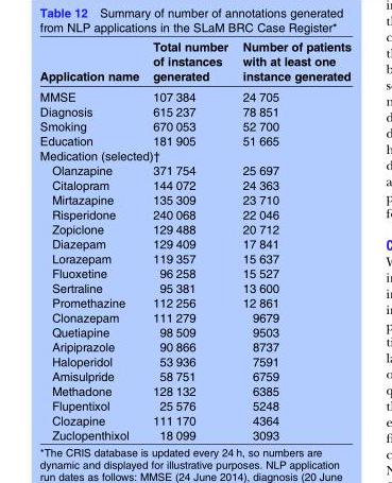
<table><thead><tr><td>Application name</td><td>Total number of instances generated</td><td>Number of patients with at least one instance generated</td></tr></thead><tbody><tr><td>MMSE</td><td>107 384</td><td>24 705</td></tr><tr><td>Diagnosis</td><td>615 237</td><td>78 851</td></tr><tr><td>Smoking</td><td>670 053</td><td>52 700</td></tr><tr><td>Education</td><td>181 905</td><td>51 665</td></tr><tr><td colspan="3">Medication (selected)†</td></tr><tr><td>Olanzapine</td><td>371 754</td><td>25 697</td></tr><tr><td>Citalopram</td><td>144 072</td><td>24 363</td></tr><tr><td>Mirtazapine</td><td>135 309</td><td>23 710</td></tr><tr><td>Risperidone</td><td>240 068</td><td>22 046</td></tr><tr><td>Zopiclone</td><td>129 488</td><td>20 712</td></tr><tr><td>Diazepam</td><td>129 409</td><td>17 841</td></tr><tr><td>Lorazepam</td><td>119 357</td><td>15 637</td></tr><tr><td>Fluoxetine</td><td>96 258</td><td>15 527</td></tr><tr><td>Sertraline</td><td>95 381</td><td>13 600</td></tr><tr><td>Promethazine</td><td>112 256</td><td>12 861</td></tr><tr><td>Clonazepam</td><td>111 279</td><td>9679</td></tr><tr><td>Quetiapine</td><td>98 509</td><td>9503</td></tr><tr><td>Aripiprazole</td><td>90 866</td><td>8737</td></tr><tr><td>Haloperidol</td><td>53 936</td><td>7591</td></tr><tr><td>Amisulpride</td><td>58 751</td><td>6759</td></tr><tr><td>Methadone</td><td>128 132</td><td>6385</td></tr><tr><td>Flupentixol</td><td>25 576</td><td>5248</td></tr><tr><td>Clozapine</td><td>111 170</td><td>4364</td></tr><tr><td>Zuclopenthixol</td><td>18 099</td><td>3093</td></tr></tbody></table>